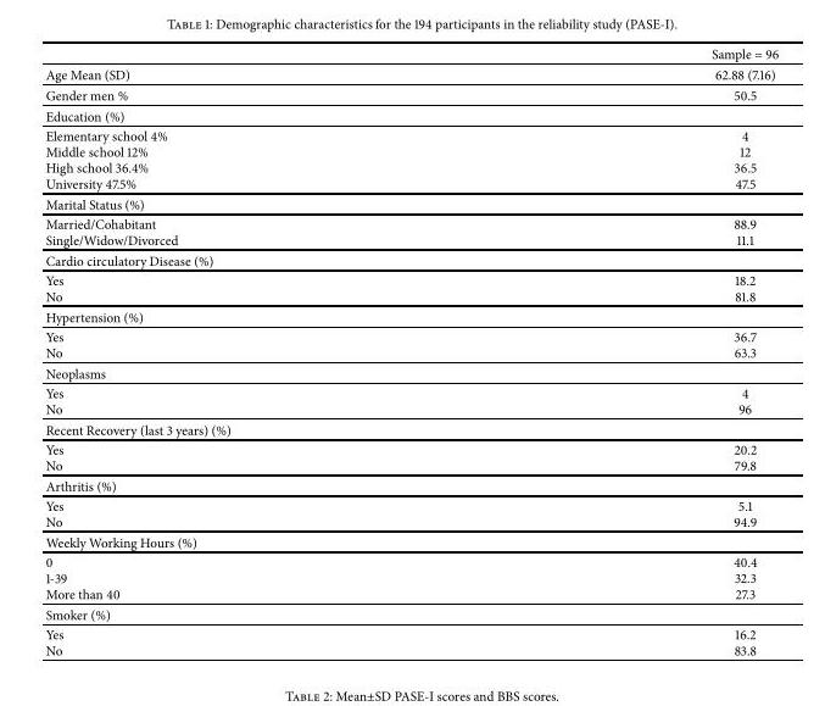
<table><thead><tr><td></td><td>Sample = 96</td></tr></thead><tbody><tr><td>Age Mean (SD)</td><td>62.88 (7.16)</td></tr><tr><td>Gender men %</td><td>50.5</td></tr><tr><td colspan="2">Education (%)</td></tr><tr><td>Elementary school 4% Middle school 12% High school 36.4% University 47.5%</td><td>4 12 36.5 47.5</td></tr><tr><td colspan="2">Marital Status (%)</td></tr><tr><td>Married/Cohabitant Single/Widow/Divorced</td><td>88.9 11.1</td></tr><tr><td colspan="2">Cardio circulatory Disease (%)</td></tr><tr><td>Yes No</td><td>18.2 81.8</td></tr><tr><td colspan="2">Hypertension (%)</td></tr><tr><td>Yes No</td><td>36.7 63.3</td></tr><tr><td colspan="2">Neoplasms</td></tr><tr><td>Yes No</td><td>4 96</td></tr><tr><td colspan="2">Recent Recovery (last 3 years) (%)</td></tr><tr><td>Yes No</td><td>20.2 79.8</td></tr><tr><td colspan="2">Arthritis (%)</td></tr><tr><td>Yes No</td><td>5.1 94.9</td></tr><tr><td colspan="2">Weekly Working Hours (%)</td></tr><tr><td>0 1-39 More than 40</td><td>40.4 32.3 27.3</td></tr><tr><td colspan="2">Smoker (%)</td></tr><tr><td>Yes No</td><td>16.2 83.8</td></tr></tbody></table>